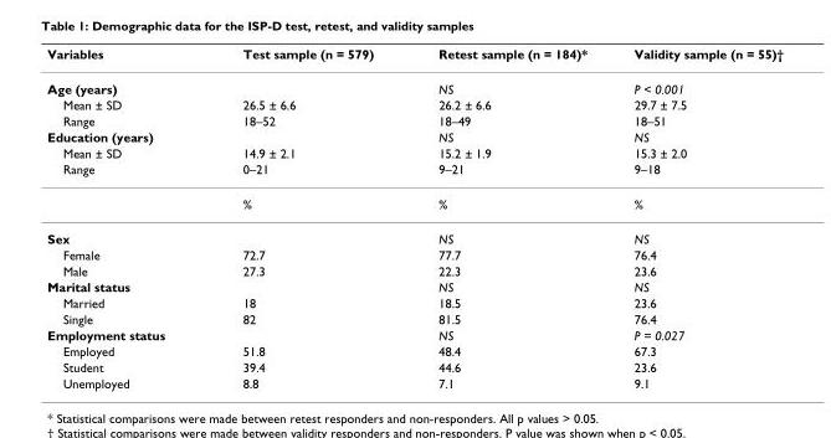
<table><thead><tr><td>Variables</td><td>Test sample (n = 579)</td><td>Retest sample (n = 184)*</td><td>Validity sample (n = 55)†</td></tr></thead><tbody><tr><td>Age (years)</td><td></td><td>NS</td><td>P &lt; 0.001</td></tr><tr><td>Mean ± SD</td><td>26.5 ± 6.6</td><td>26.2 ± 6.6</td><td>29.7 ± 7.5</td></tr><tr><td>Range</td><td>18–52</td><td>18–49</td><td>18–51</td></tr><tr><td>Education (years)</td><td></td><td>NS</td><td>NS</td></tr><tr><td>Mean ± SD</td><td>14.9 ± 2.1</td><td>15.2 ± 1.9</td><td>15.3 ± 2.0</td></tr><tr><td rowspan="2">Range</td><td>0–21</td><td>9–21</td><td>9–18</td></tr><tr><td>%</td><td>%</td><td>%</td></tr><tr><td>Sex</td><td></td><td>NS</td><td>NS</td></tr><tr><td>Female</td><td>72.7</td><td>77.7</td><td>76.4</td></tr><tr><td>Male</td><td>27.3</td><td>22.3</td><td>23.6</td></tr><tr><td>Marital status</td><td></td><td>NS</td><td>NS</td></tr><tr><td>Married</td><td>18</td><td>18.5</td><td>23.6</td></tr><tr><td>Single</td><td>82</td><td>81.5</td><td>76.4</td></tr><tr><td>Employment status</td><td></td><td>NS</td><td>P = 0.027</td></tr><tr><td>Employed</td><td>51.8</td><td>48.4</td><td>67.3</td></tr><tr><td>Student</td><td>39.4</td><td>44.6</td><td>23.6</td></tr><tr><td>Unemployed</td><td>8.8</td><td>7.1</td><td>9.1</td></tr></tbody></table>